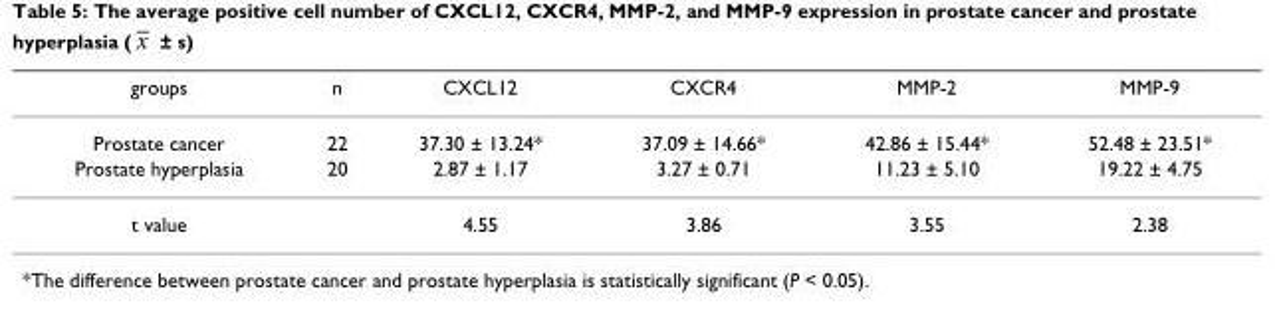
<table><thead><tr><td>groups</td><td>n</td><td>CXCL12</td><td>CXCR4</td><td>MMP-2</td><td>MMP-9</td></tr></thead><tbody><tr><td>Prostate cancer</td><td>22</td><td>37.30 ± 13.24*</td><td>37.09 ± 14.66*</td><td>42.86 ± 15.44*</td><td>52.48 ± 23.51*</td></tr><tr><td>Prostate hyperplasia</td><td>20</td><td>2.87 ± 1.17</td><td>3.27 ± 0.71</td><td>11.23 ± 5.10</td><td>19.22 ± 4.75</td></tr><tr><td>t value</td><td></td><td>4.55</td><td>3.86</td><td>3.55</td><td>2.38</td></tr></tbody></table>